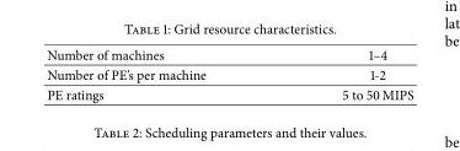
<table><tbody><tr><td>Number of machines</td><td>1–4</td></tr><tr><td>Number of PE’s per machine</td><td>1-2</td></tr><tr><td>PE ratings</td><td>5 to 50 MIPS</td></tr></tbody></table>